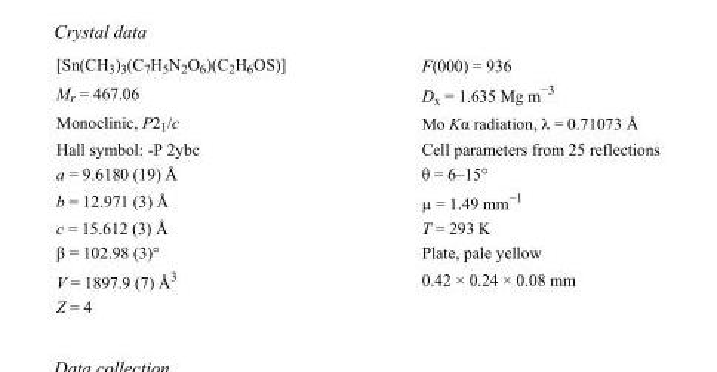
<table><tbody><tr><td>[Sn(CH<sub>3</sub>)<sub>3</sub>(C<sub>7</sub>H<sub>5</sub>N<sub>2</sub>O<sub>6</sub>)(C<sub>2</sub>H<sub>6</sub>OS)]</td><td>F(000) = 936</td></tr><tr><td>M<sub>r</sub> = 467.06</td><td>D<sub>x</sub> = 1.635 Mg m<sup>−3</sup></td></tr><tr><td>Monoclinic, P2<sub>1</sub>/c</td><td>Mo Kα radiation, λ = 0.71073 Å</td></tr><tr><td>Hall symbol: -P 2ybc</td><td>Cell parameters from 25 reflections</td></tr><tr><td>a = 9.6180 (19) Å</td><td>θ = 6–15°</td></tr><tr><td>b = 12.971 (3) Å</td><td>µ = 1.49 mm<sup>−1</sup></td></tr><tr><td>c = 15.612 (3) Å</td><td>T = 293 K</td></tr><tr><td>β = 102.98 (3)°</td><td>Plate, pale yellow</td></tr><tr><td>V = 1897.9 (7) Å<sup>3</sup></td><td>0.42 × 0.24 × 0.08 mm</td></tr><tr><td>Z = 4</td><td></td></tr></tbody></table>